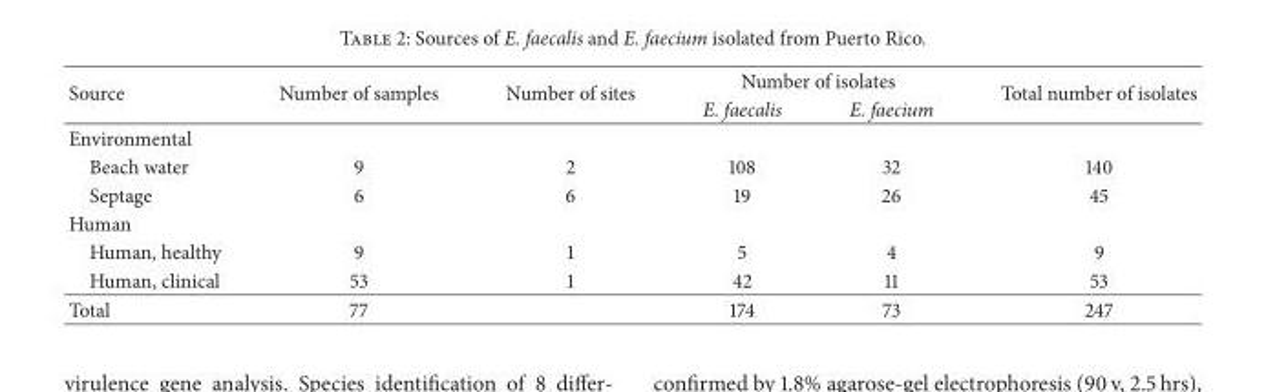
<table><thead><tr><td rowspan="2">Source</td><td rowspan="2">Number of samples</td><td rowspan="2">Number of sites</td><td colspan="2">Number of isolates</td><td rowspan="2">Total number of isolates</td></tr><tr><td>E. faecalis</td><td>E. faecium</td></tr></thead><tbody><tr><td colspan="6">Environmental</td></tr><tr><td>Beach water</td><td>9</td><td>2</td><td>108</td><td>32</td><td>140</td></tr><tr><td>Septage</td><td>6</td><td>6</td><td>19</td><td>26</td><td>45</td></tr><tr><td colspan="6">Human</td></tr><tr><td>Human, healthy</td><td>9</td><td>1</td><td>5</td><td>4</td><td>9</td></tr><tr><td>Human, clinical</td><td>53</td><td>1</td><td>42</td><td>11</td><td>53</td></tr><tr><td>Total</td><td>77</td><td></td><td>174</td><td>73</td><td>247</td></tr></tbody></table>